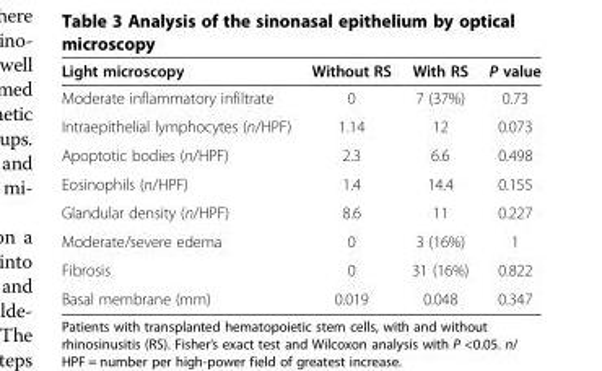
<table><thead><tr><td>Light microscopy</td><td>Without RS</td><td>With RS</td><td>P value</td></tr></thead><tbody><tr><td>Moderate inflammatory infiltrate</td><td>0</td><td>7 (37%)</td><td>0.73</td></tr><tr><td>Intraepithelial lymphocytes (n/HPF)</td><td>1.14</td><td>12</td><td>0.073</td></tr><tr><td>Apoptotic bodies (n/HPF)</td><td>2.3</td><td>6.6</td><td>0.498</td></tr><tr><td>Eosinophils (n/HPF)</td><td>1.4</td><td>14.4</td><td>0.155</td></tr><tr><td>Glandular density (n/HPF)</td><td>8.6</td><td>11</td><td>0.227</td></tr><tr><td>Moderate/severe edema</td><td>0</td><td>3 (16%)</td><td>1</td></tr><tr><td>Fibrosis</td><td>0</td><td>31 (16%)</td><td>0.822</td></tr><tr><td>Basal membrane (mm)</td><td>0.019</td><td>0.048</td><td>0.347</td></tr></tbody></table>